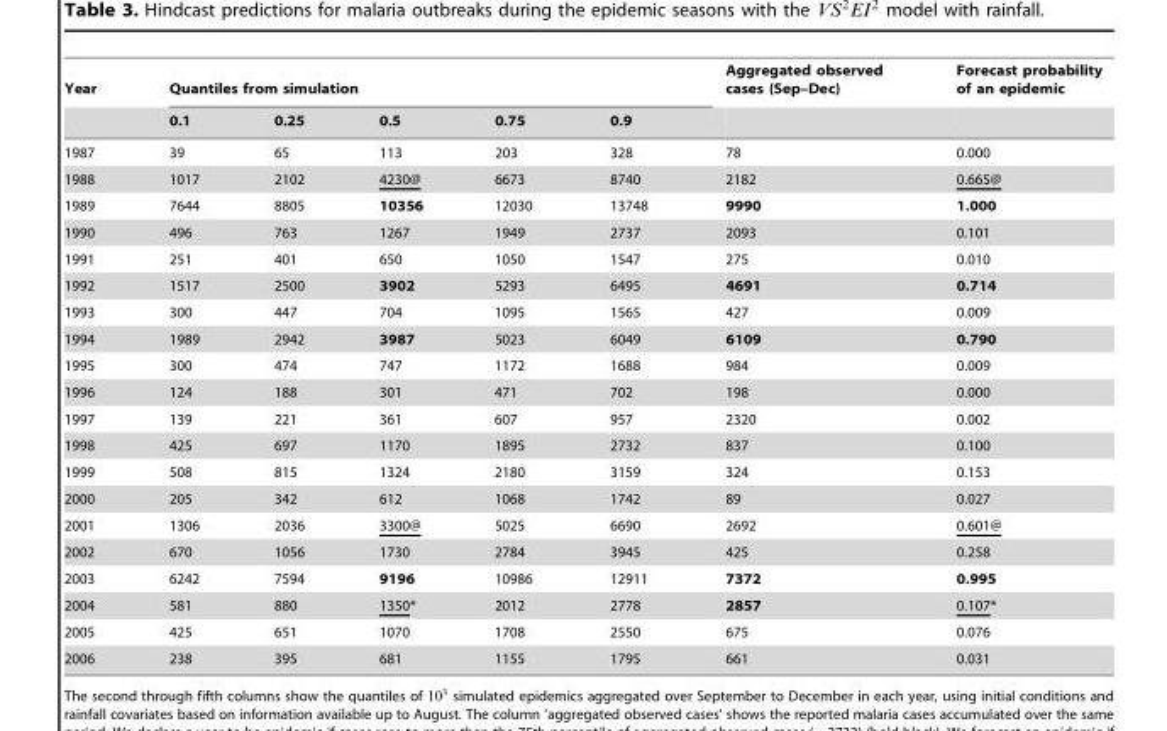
<table><thead><tr><td rowspan="2">Year</td><td colspan="5">Quantiles from simulation</td><td rowspan="2">Aggregated observed cases (Sep–Dec)</td><td rowspan="2">Forecast probability of an epidemic</td></tr><tr><td>0.1</td><td>0.25</td><td>0.5</td><td>0.75</td><td>0.9</td></tr></thead><tbody><tr><td>1987</td><td>39</td><td>65</td><td>113</td><td>203</td><td>328</td><td>78</td><td>0.000</td></tr><tr><td>1988</td><td>1017</td><td>2102</td><td>4230@</td><td>6673</td><td>8740</td><td>2182</td><td>0.665@</td></tr><tr><td>1989</td><td>7644</td><td>8805</td><td>10356</td><td>12030</td><td>13748</td><td>9990</td><td>1.000</td></tr><tr><td>1990</td><td>496</td><td>763</td><td>1267</td><td>1949</td><td>2737</td><td>2093</td><td>0.101</td></tr><tr><td>1991</td><td>251</td><td>401</td><td>650</td><td>1050</td><td>1547</td><td>275</td><td>0.010</td></tr><tr><td>1992</td><td>1517</td><td>2500</td><td>3902</td><td>5293</td><td>6495</td><td>4691</td><td>0.714</td></tr><tr><td>1993</td><td>300</td><td>447</td><td>704</td><td>1095</td><td>1565</td><td>427</td><td>0.009</td></tr><tr><td>1994</td><td>1989</td><td>2942</td><td>3987</td><td>5023</td><td>6049</td><td>6109</td><td>0.790</td></tr><tr><td>1995</td><td>300</td><td>474</td><td>747</td><td>1172</td><td>1688</td><td>984</td><td>0.009</td></tr><tr><td>1996</td><td>124</td><td>188</td><td>301</td><td>471</td><td>702</td><td>198</td><td>0.000</td></tr><tr><td>1997</td><td>139</td><td>221</td><td>361</td><td>607</td><td>957</td><td>2320</td><td>0.002</td></tr><tr><td>1998</td><td>425</td><td>697</td><td>1170</td><td>1895</td><td>2732</td><td>837</td><td>0.100</td></tr><tr><td>1999</td><td>508</td><td>815</td><td>1324</td><td>2180</td><td>3159</td><td>324</td><td>0.153</td></tr><tr><td>2000</td><td>205</td><td>342</td><td>612</td><td>1068</td><td>1742</td><td>89</td><td>0.027</td></tr><tr><td>2001</td><td>1306</td><td>2036</td><td>3300@</td><td>5025</td><td>6690</td><td>2692</td><td>0.601@</td></tr><tr><td>2002</td><td>670</td><td>1056</td><td>1730</td><td>2784</td><td>3945</td><td>425</td><td>0.258</td></tr><tr><td>2003</td><td>6242</td><td>7594</td><td>9196</td><td>10986</td><td>12911</td><td>7372</td><td>0.995</td></tr><tr><td>2004</td><td>581</td><td>880</td><td>1350*</td><td>2012</td><td>2778</td><td>2857</td><td>0.107*</td></tr><tr><td>2005</td><td>425</td><td>651</td><td>1070</td><td>1708</td><td>2550</td><td>675</td><td>0.076</td></tr><tr><td>2006</td><td>238</td><td>395</td><td>681</td><td>1155</td><td>1795</td><td>661</td><td>0.031</td></tr></tbody></table>